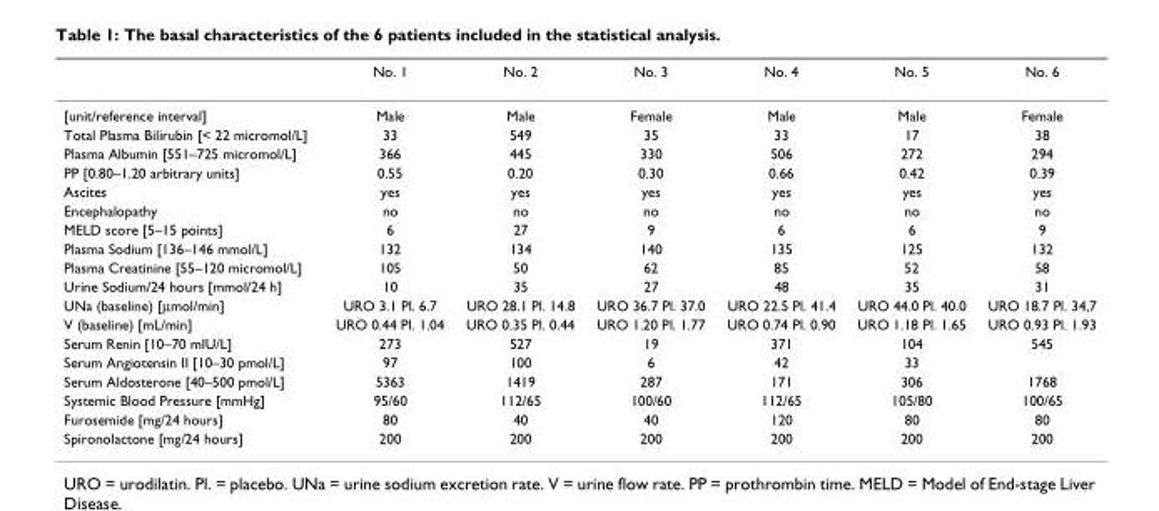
<table><thead><tr><td></td><td>No. 1</td><td>No. 2</td><td>No. 3</td><td>No. 4</td><td>No. 5</td><td>No. 6</td></tr></thead><tbody><tr><td>[unit/reference interval]</td><td>Male</td><td>Male</td><td>Female</td><td>Male</td><td>Male</td><td>Female</td></tr><tr><td>Total Plasma Bilirubin [&lt; 22 micromol/L]</td><td>33</td><td>549</td><td>35</td><td>33</td><td>17</td><td>38</td></tr><tr><td>Plasma Albumin [551–725 micromol/L]</td><td>366</td><td>445</td><td>330</td><td>506</td><td>272</td><td>294</td></tr><tr><td>PP [0.80–1.20 arbitrary units]</td><td>0.55</td><td>0.20</td><td>0.30</td><td>0.66</td><td>0.42</td><td>0.39</td></tr><tr><td>Ascites</td><td>yes</td><td>yes</td><td>yes</td><td>yes</td><td>yes</td><td>yes</td></tr><tr><td>Encephalopathy</td><td>no</td><td>no</td><td>no</td><td>no</td><td>no</td><td>no</td></tr><tr><td>MELD score [5–15 points]</td><td>6</td><td>27</td><td>9</td><td>6</td><td>6</td><td>9</td></tr><tr><td>Plasma Sodium [136–146 mmol/L]</td><td>132</td><td>134</td><td>140</td><td>135</td><td>125</td><td>132</td></tr><tr><td>Plasma Creatinine [55–120 micromol/L]</td><td>105</td><td>50</td><td>62</td><td>85</td><td>52</td><td>58</td></tr><tr><td>Urine Sodium/24 hours [mmol/24 h]</td><td>10</td><td>35</td><td>27</td><td>48</td><td>35</td><td>31</td></tr><tr><td>UNa (baseline) [μmol/min]</td><td>URO 3.1 Pl. 6.7</td><td>URO 28.1 Pl. 14.8</td><td>URO 36.7 Pl. 37.0</td><td>URO 22.5 Pl. 41.4</td><td>URO 44.0 Pl. 40.0</td><td>URO 18.7 Pl. 34,7</td></tr><tr><td>V (baseline) [mL/min]</td><td>URO 0.44 Pl. 1.04</td><td>URO 0.35 Pl. 0.44</td><td>URO 1.20 Pl. 1.77</td><td>URO 0.74 Pl. 0.90</td><td>URO 1.18 Pl. 1.65</td><td>URO 0.93 Pl. 1.93</td></tr><tr><td>Serum Renin [10–70 mIU/L]</td><td>273</td><td>527</td><td>19</td><td>371</td><td>104</td><td>545</td></tr><tr><td>Serum Angiotensin II [10–30 pmol/L]</td><td>97</td><td>100</td><td>6</td><td>42</td><td>33</td><td></td></tr><tr><td>Serum Aldosterone [40–500 pmol/L]</td><td>5363</td><td>1419</td><td>287</td><td>171</td><td>306</td><td>1768</td></tr><tr><td>Systemic Blood Pressure [mmHg]</td><td>95/60</td><td>112/65</td><td>100/60</td><td>112/65</td><td>105/80</td><td>100/65</td></tr><tr><td>Furosemide [mg/24 hours]</td><td>80</td><td>40</td><td>40</td><td>120</td><td>80</td><td>80</td></tr><tr><td>Spironolactone [mg/24 hours]</td><td>200</td><td>200</td><td>200</td><td>200</td><td>200</td><td>200</td></tr></tbody></table>